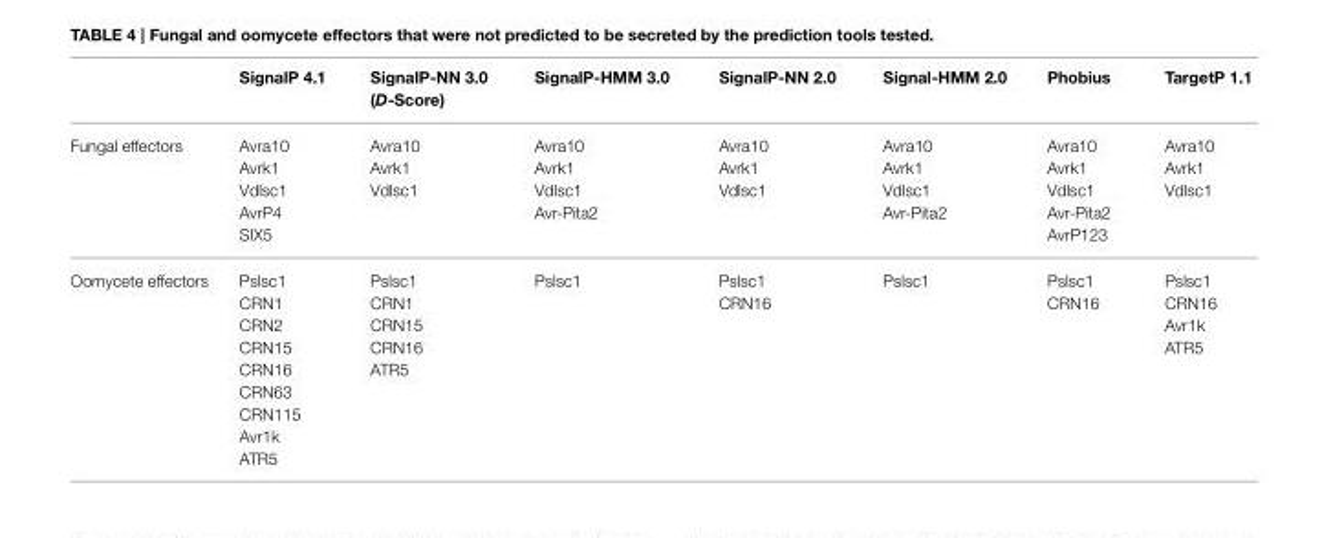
<table><thead><tr><td></td><td>SignalP 4.1</td><td>SignalP-NN 3.0 (D-Score)</td><td>SignalP-HMM 3.0</td><td>SignalP-NN 2.0</td><td>Signal-HMM 2.0</td><td>Phobius</td><td>TargetP 1.1</td></tr></thead><tbody><tr><td>Fungal effectors</td><td>Avra10 Avrk1 Vdlsc1 AvrP4 SIX5</td><td>Avra10 Avrk1 Vdlsc1</td><td>Avra10 Avrk1 Vdlsc1 Avr-Pita2</td><td>Avra10 Avrk1 Vdlsc1</td><td>Avra10 Avrk1 Vdlsc1 Avr-Pita2</td><td>Avra10 Avrk1 Vdlsc1 Avr-Pita2 AvrP123</td><td>Avra10 Avrk1 Vdlsc1</td></tr><tr><td>Oomycete effectors</td><td>Pslsc1 CRN1 CRN2 CRN15 CRN16 CRN63 CRN115 Avr1k ATR5</td><td>Pslsc1 CRN1 CRN15 CRN16 ATR5</td><td>Pslsc1</td><td>Pslsc1 CRN16</td><td>Pslsc1</td><td>Pslsc1 CRN16</td><td>Pslsc1 CRN16 Avr1k ATR5</td></tr></tbody></table>